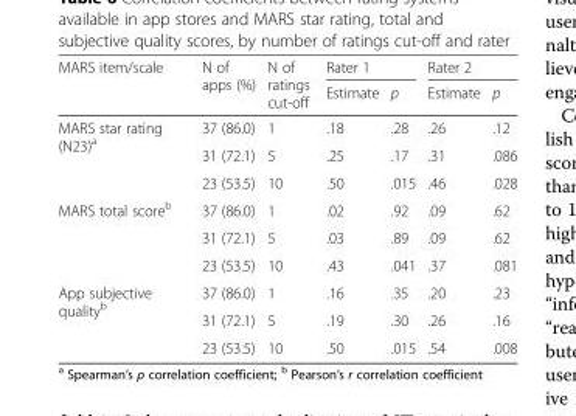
<table><thead><tr><td rowspan="2">MARS item/scale</td><td rowspan="2">N of apps (%)</td><td rowspan="2">N of ratings cut-off</td><td colspan="2">Rater 1</td><td colspan="2">Rater 2</td></tr><tr><td>Estimate</td><td>p</td><td>Estimate</td><td>p</td></tr></thead><tbody><tr><td rowspan="3">MARS star rating (N23)<sup>a</sup></td><td>37 (86.0)</td><td>1</td><td>.18</td><td>.28</td><td>.26</td><td>.12</td></tr><tr><td>31 (72.1)</td><td>5</td><td>.25</td><td>.17</td><td>.31</td><td>.086</td></tr><tr><td>23 (53.5)</td><td>10</td><td>.50</td><td>.015</td><td>.46</td><td>.028</td></tr><tr><td rowspan="3">MARS total score<sup>b</sup></td><td>37 (86.0)</td><td>1</td><td>.02</td><td>.92</td><td>.09</td><td>.62</td></tr><tr><td>31 (72.1)</td><td>5</td><td>.03</td><td>.89</td><td>.09</td><td>.62</td></tr><tr><td>23 (53.5)</td><td>10</td><td>.43</td><td>.041</td><td>.37</td><td>.081</td></tr><tr><td rowspan="3">App subjective quality<sup>b</sup></td><td>37 (86.0)</td><td>1</td><td>.16</td><td>.35</td><td>.20</td><td>.23</td></tr><tr><td>31 (72.1)</td><td>5</td><td>.19</td><td>.30</td><td>.26</td><td>.16</td></tr><tr><td>23 (53.5)</td><td>10</td><td>.50</td><td>.015</td><td>.54</td><td>.008</td></tr></tbody></table>